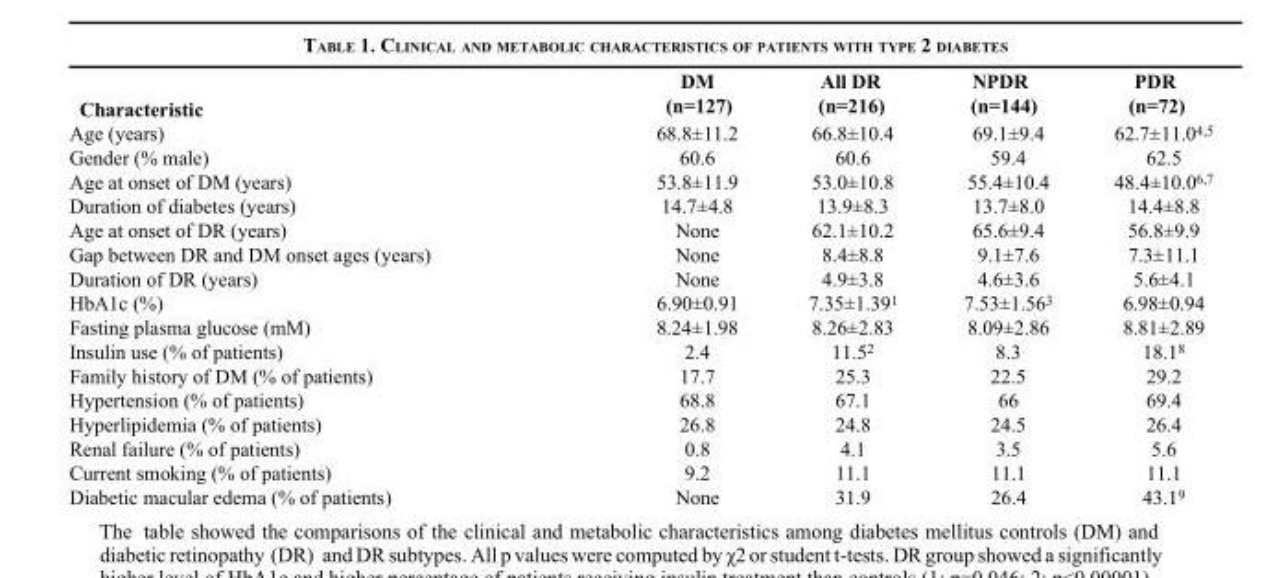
<table><thead><tr><td>Characteristic</td><td>DM (n=127)</td><td>All DR (n=216)</td><td>NPDR (n=144)</td><td>PDR (n=72)</td></tr></thead><tbody><tr><td>Age (years)</td><td>68.8±11.2</td><td>66.8±10.4</td><td>69.1±9.4</td><td>62.7±11.0<sup>4,5</sup></td></tr><tr><td>Gender (% male)</td><td>60.6</td><td>60.6</td><td>59.4</td><td>62.5</td></tr><tr><td>Age at onset of DM (years)</td><td>53.8±11.9</td><td>53.0±10.8</td><td>55.4±10.4</td><td>48.4±10.0<sup>6,7</sup></td></tr><tr><td>Duration of diabetes (years)</td><td>14.7±4.8</td><td>13.9±8.3</td><td>13.7±8.0</td><td>14.4±8.8</td></tr><tr><td>Age at onset of DR (years)</td><td>None</td><td>62.1±10.2</td><td>65.6±9.4</td><td>56.8±9.9</td></tr><tr><td>Gap between DR and DM onset ages (years)</td><td>None</td><td>8.4±8.8</td><td>9.1±7.6</td><td>7.3±11.1</td></tr><tr><td>Duration of DR (years)</td><td>None</td><td>4.9±3.8</td><td>4.6±3.6</td><td>5.6±4.1</td></tr><tr><td>HbA1c (%)</td><td>6.90±0.91</td><td>7.35±1.39<sup>1</sup></td><td>7.53±1.56<sup>3</sup></td><td>6.98±0.94</td></tr><tr><td>Fasting plasma glucose (mM)</td><td>8.24±1.98</td><td>8.26±2.83</td><td>8.09±2.86</td><td>8.81±2.89</td></tr><tr><td>Insulin use (% of patients)</td><td>2.4</td><td>11.5<sup>2</sup></td><td>8.3</td><td>18.1<sup>8</sup></td></tr><tr><td>Family history of DM (% of patients)</td><td>17.7</td><td>25.3</td><td>22.5</td><td>29.2</td></tr><tr><td>Hypertension (% of patients)</td><td>68.8</td><td>67.1</td><td>66</td><td>69.4</td></tr><tr><td>Hyperlipidemia (% of patients)</td><td>26.8</td><td>24.8</td><td>24.5</td><td>26.4</td></tr><tr><td>Renal failure (% of patients)</td><td>0.8</td><td>4.1</td><td>3.5</td><td>5.6</td></tr><tr><td>Current smoking (% of patients)</td><td>9.2</td><td>11.1</td><td>11.1</td><td>11.1</td></tr><tr><td>Diabetic macular edema (% of patients)</td><td>None</td><td>31.9</td><td>26.4</td><td>43.1<sup>9</sup></td></tr></tbody></table>